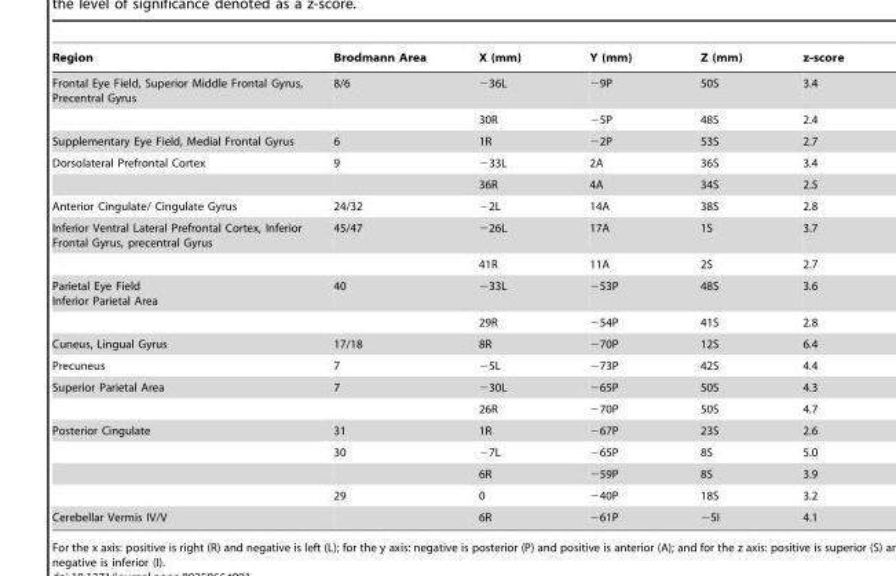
<table><thead><tr><td>Region</td><td>Brodmann Area</td><td>X (mm)</td><td>Y (mm)</td><td>Z (mm)</td><td>z-score</td></tr></thead><tbody><tr><td rowspan="2">Frontal Eye Field, Superior Middle Frontal Gyrus, Precentral Gyrus</td><td>8/6</td><td>−36L</td><td>−9P</td><td>50S</td><td>3.4</td></tr><tr><td></td><td>30R</td><td>−5P</td><td>48S</td><td>2.4</td></tr><tr><td>Supplementary Eye Field, Medial Frontal Gyrus</td><td>6</td><td>1R</td><td>−2P</td><td>53S</td><td>2.7</td></tr><tr><td rowspan="2">Dorsolateral Prefrontal Cortex</td><td>9</td><td>−33L</td><td>2A</td><td>36S</td><td>3.4</td></tr><tr><td></td><td>36R</td><td>4A</td><td>34S</td><td>2.5</td></tr><tr><td>Anterior Cingulate/ Cingulate Gyrus</td><td>24/32</td><td>−2L</td><td>14A</td><td>38S</td><td>2.8</td></tr><tr><td rowspan="2">Inferior Ventral Lateral Prefrontal Cortex, Inferior Frontal Gyrus, precentral Gyrus</td><td>45/47</td><td>−26L</td><td>17A</td><td>1S</td><td>3.7</td></tr><tr><td></td><td>41R</td><td>11A</td><td>2S</td><td>2.7</td></tr><tr><td rowspan="2">Parietal Eye Field Inferior Parietal Area</td><td>40</td><td>−33L</td><td>−53P</td><td>48S</td><td>3.6</td></tr><tr><td></td><td>29R</td><td>−54P</td><td>41S</td><td>2.8</td></tr><tr><td>Cuneus, Lingual Gyrus</td><td>17/18</td><td>8R</td><td>−70P</td><td>12S</td><td>6.4</td></tr><tr><td>Precuneus</td><td>7</td><td>−5L</td><td>−73P</td><td>42S</td><td>4.4</td></tr><tr><td rowspan="2">Superior Parietal Area</td><td>7</td><td>−30L</td><td>−65P</td><td>50S</td><td>4.3</td></tr><tr><td></td><td>26R</td><td>−70P</td><td>50S</td><td>4.7</td></tr><tr><td rowspan="4">Posterior Cingulate</td><td>31</td><td>1R</td><td>−67P</td><td>23S</td><td>2.6</td></tr><tr><td>30</td><td>−7L</td><td>−65P</td><td>8S</td><td>5.0</td></tr><tr><td></td><td>6R</td><td>−59P</td><td>8S</td><td>3.9</td></tr><tr><td>29</td><td>0</td><td>−40P</td><td>18S</td><td>3.2</td></tr><tr><td>Cerebellar Vermis IV/V</td><td></td><td>6R</td><td>−61P</td><td>−5I</td><td>4.1</td></tr></tbody></table>